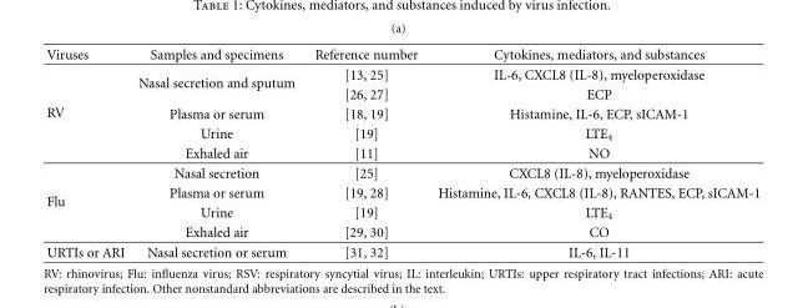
<table><thead><tr><td>Viruses</td><td>Samples and specimens</td><td>Reference number</td><td>Cytokines, mediators, and substances</td></tr></thead><tbody><tr><td rowspan="5">RV</td><td rowspan="2">Nasal secretion and sputum</td><td>[13, 25]</td><td>IL-6, CXCL8 (IL-8), myeloperoxidase</td></tr><tr><td>[26, 27]</td><td>ECP</td></tr><tr><td>Plasma or serum</td><td>[18, 19]</td><td>Histamine, IL-6, ECP, sICAM-1</td></tr><tr><td>Urine</td><td>[19]</td><td>LTE<sub>4</sub></td></tr><tr><td>Exhaled air</td><td>[11]</td><td>NO</td></tr><tr><td rowspan="4">Flu</td><td>Nasal secretion</td><td>[25]</td><td>CXCL8 (IL-8), myeloperoxidase</td></tr><tr><td>Plasma or serum</td><td>[19, 28]</td><td>Histamine, IL-6, CXCL8 (IL-8), RANTES, ECP, sICAM-1</td></tr><tr><td>Urine</td><td>[19]</td><td>LTE<sub>4</sub></td></tr><tr><td>Exhaled air</td><td>[29, 30]</td><td>CO</td></tr><tr><td>URTIs or ARI</td><td>Nasal secretion or serum</td><td>[31, 32]</td><td>IL-6, IL-11</td></tr></tbody></table>